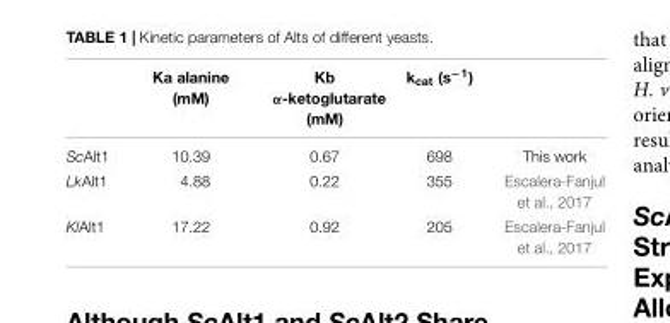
<table><thead><tr><td></td><td>Ka alanine (mM)</td><td>Kb α-ketoglutarate (mM)</td><td>k<sub>cat</sub> (s<sup>−1</sup>)</td><td></td></tr></thead><tbody><tr><td>ScAlt1</td><td>10.39</td><td>0.67</td><td>698</td><td>This work</td></tr><tr><td>LkAlt1</td><td>4.88</td><td>0.22</td><td>355</td><td>Escalera-Fanjul et al., 2017</td></tr><tr><td>KlAlt1</td><td>17.22</td><td>0.92</td><td>205</td><td>Escalera-Fanjul et al., 2017</td></tr></tbody></table>